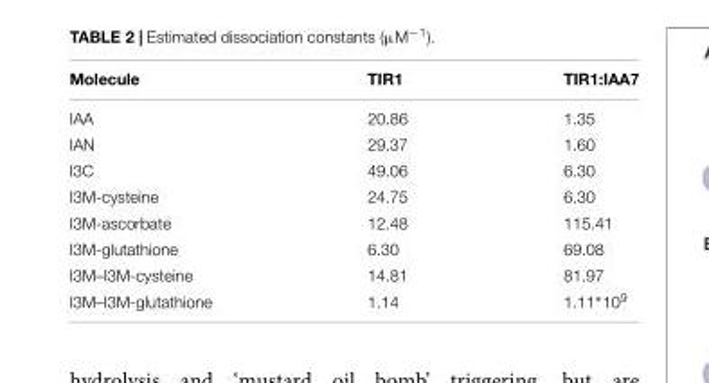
<table><thead><tr><td>Molecule</td><td>TIR1</td><td>TIR1:IAA7</td></tr></thead><tbody><tr><td>IAA</td><td>20.86</td><td>1.35</td></tr><tr><td>IAN</td><td>29.37</td><td>1.60</td></tr><tr><td>I3C</td><td>49.06</td><td>6.30</td></tr><tr><td>I3M-cysteine</td><td>24.75</td><td>6.30</td></tr><tr><td>I3M-ascorbate</td><td>12.48</td><td>115.41</td></tr><tr><td>I3M-glutathione</td><td>6.30</td><td>69.08</td></tr><tr><td>I3M–I3M-cysteine</td><td>14.81</td><td>81.97</td></tr><tr><td>I3M–I3M-glutathione</td><td>1.14</td><td>1.11∗10<sup>9</sup></td></tr></tbody></table>